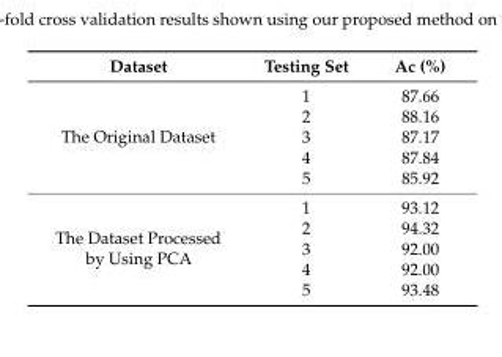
<table><thead><tr><td>Dataset</td><td>Testing Set</td><td>Ac (%)</td></tr></thead><tbody><tr><td rowspan="5">The Original Dataset</td><td>1</td><td>87.66</td></tr><tr><td>2</td><td>88.16</td></tr><tr><td>3</td><td>87.17</td></tr><tr><td>4</td><td>87.84</td></tr><tr><td>5</td><td>85.92</td></tr><tr><td rowspan="5">The Dataset Processed by Using PCA</td><td>1</td><td>93.12</td></tr><tr><td>2</td><td>94.32</td></tr><tr><td>3</td><td>92.00</td></tr><tr><td>4</td><td>92.00</td></tr><tr><td>5</td><td>93.48</td></tr></tbody></table>